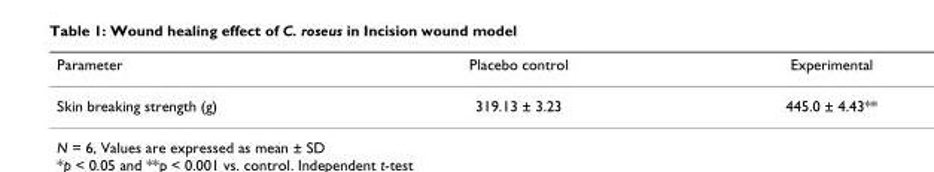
<table><thead><tr><td>Parameter</td><td>Placebo control</td><td>Experimental</td></tr></thead><tbody><tr><td>Skin breaking strength (g)</td><td>319.13 ± 3.23</td><td>445.0 ± 4.43**</td></tr></tbody></table>